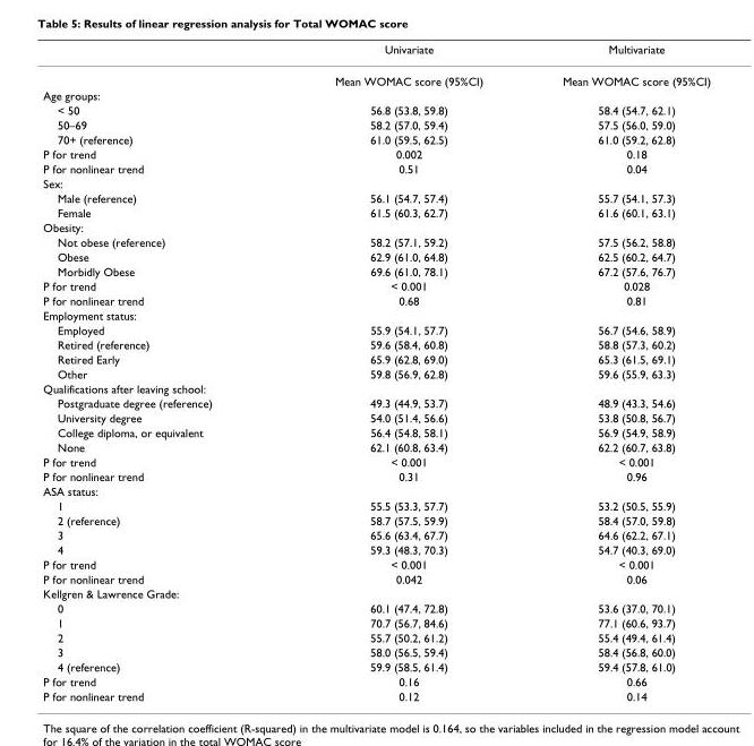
<table><thead><tr><td></td><td>Univariate</td><td>Multivariate</td></tr></thead><tbody><tr><td></td><td>Mean WOMAC score (95%CI)</td><td>Mean WOMAC score (95%CI)</td></tr><tr><td colspan="3">Age groups:</td></tr><tr><td>&lt; 50</td><td>56.8 (53.8, 59.8)</td><td>58.4 (54.7, 62.1)</td></tr><tr><td>50–69</td><td>58.2 (57.0, 59.4)</td><td>57.5 (56.0, 59.0)</td></tr><tr><td>70+ (reference)</td><td>61.0 (59.5, 62.5)</td><td>61.0 (59.2, 62.8)</td></tr><tr><td>P for trend</td><td>0.002</td><td>0.18</td></tr><tr><td>P for nonlinear trend</td><td>0.51</td><td>0.04</td></tr><tr><td colspan="3">Sex:</td></tr><tr><td>Male (reference)</td><td>56.1 (54.7, 57.4)</td><td>55.7 (54.1, 57.3)</td></tr><tr><td>Female</td><td>61.5 (60.3, 62.7)</td><td>61.6 (60.1, 63.1)</td></tr><tr><td colspan="3">Obesity:</td></tr><tr><td>Not obese (reference)</td><td>58.2 (57.1, 59.2)</td><td>57.5 (56.2, 58.8)</td></tr><tr><td>Obese</td><td>62.9 (61.0, 64.8)</td><td>62.5 (60.2, 64.7)</td></tr><tr><td>Morbidly Obese</td><td>69.6 (61.0, 78.1)</td><td>67.2 (57.6, 76.7)</td></tr><tr><td>P for trend</td><td>&lt; 0.001</td><td>0.028</td></tr><tr><td>P for nonlinear trend</td><td>0.68</td><td>0.81</td></tr><tr><td colspan="3">Employment status:</td></tr><tr><td>Employed</td><td>55.9 (54.1, 57.7)</td><td>56.7 (54.6, 58.9)</td></tr><tr><td>Retired (reference)</td><td>59.6 (58.4, 60.8)</td><td>58.8 (57.3, 60.2)</td></tr><tr><td>Retired Early</td><td>65.9 (62.8, 69.0)</td><td>65.3 (61.5, 69.1)</td></tr><tr><td>Other</td><td>59.8 (56.9, 62.8)</td><td>59.6 (55.9, 63.3)</td></tr><tr><td colspan="3">Qualifications after leaving school:</td></tr><tr><td>Postgraduate degree (reference)</td><td>49.3 (44.9, 53.7)</td><td>48.9 (43.3, 54.6)</td></tr><tr><td>University degree</td><td>54.0 (51.4, 56.6)</td><td>53.8 (50.8, 56.7)</td></tr><tr><td>College diploma, or equivalent</td><td>56.4 (54.8, 58.1)</td><td>56.9 (54.9, 58.9)</td></tr><tr><td>None</td><td>62.1 (60.8, 63.4)</td><td>62.2 (60.7, 63.8)</td></tr><tr><td>P for trend</td><td>&lt; 0.001</td><td>&lt; 0.001</td></tr><tr><td>P for nonlinear trend</td><td>0.31</td><td>0.96</td></tr><tr><td colspan="3">ASA status:</td></tr><tr><td>1</td><td>55.5 (53.3, 57.7)</td><td>53.2 (50.5, 55.9)</td></tr><tr><td>2 (reference)</td><td>58.7 (57.5, 59.9)</td><td>58.4 (57.0, 59.8)</td></tr><tr><td>3</td><td>65.6 (63.4, 67.7)</td><td>64.6 (62.2, 67.1)</td></tr><tr><td>4</td><td>59.3 (48.3, 70.3)</td><td>54.7 (40.3, 69.0)</td></tr><tr><td>P for trend</td><td>&lt; 0.001</td><td>&lt; 0.001</td></tr><tr><td>P for nonlinear trend</td><td>0.042</td><td>0.06</td></tr><tr><td colspan="3">Kellgren &amp; Lawrence Grade:</td></tr><tr><td>0</td><td>60.1 (47.4, 72.8)</td><td>53.6 (37.0, 70.1)</td></tr><tr><td>1</td><td>70.7 (56.7, 84.6)</td><td>77.1 (60.6, 93.7)</td></tr><tr><td>2</td><td>55.7 (50.2, 61.2)</td><td>55.4 (49.4, 61.4)</td></tr><tr><td>3</td><td>58.0 (56.5, 59.4)</td><td>58.4 (56.8, 60.0)</td></tr><tr><td>4 (reference)</td><td>59.9 (58.5, 61.4)</td><td>59.4 (57.8, 61.0)</td></tr><tr><td>P for trend</td><td>0.16</td><td>0.66</td></tr><tr><td>P for nonlinear trend</td><td>0.12</td><td>0.14</td></tr></tbody></table>